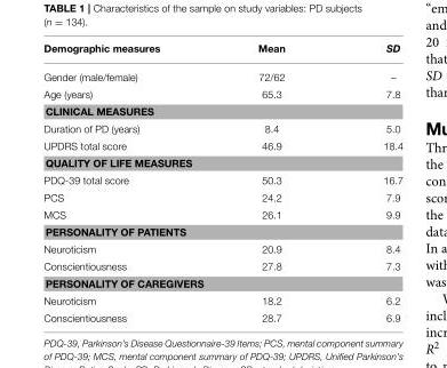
<table><thead><tr><td>Demographic measures</td><td>Mean</td><td>SD</td></tr></thead><tbody><tr><td>Gender (male/female)</td><td>72/62</td><td>–</td></tr><tr><td>Age (years)</td><td>65.3</td><td>7.8</td></tr><tr><td colspan="3">CLINICAL MEASURES</td></tr><tr><td>Duration of PD (years)</td><td>8.4</td><td>5.0</td></tr><tr><td>UPDRS total score</td><td>46.9</td><td>18.4</td></tr><tr><td colspan="3">QUALITY OF LIFE MEASURES</td></tr><tr><td>PDQ-39 total score</td><td>50.3</td><td>16.7</td></tr><tr><td>PCS</td><td>24.2</td><td>7.9</td></tr><tr><td>MCS</td><td>26.1</td><td>9.9</td></tr><tr><td colspan="3">PERSONALITY OF PATIENTS</td></tr><tr><td>Neuroticism</td><td>20.9</td><td>8.4</td></tr><tr><td>Conscientiousness</td><td>27.8</td><td>7.3</td></tr><tr><td colspan="3">PERSONALITY OF CAREGIVERS</td></tr><tr><td>Neuroticism</td><td>18.2</td><td>6.2</td></tr><tr><td>Conscientiousness</td><td>28.7</td><td>6.9</td></tr></tbody></table>